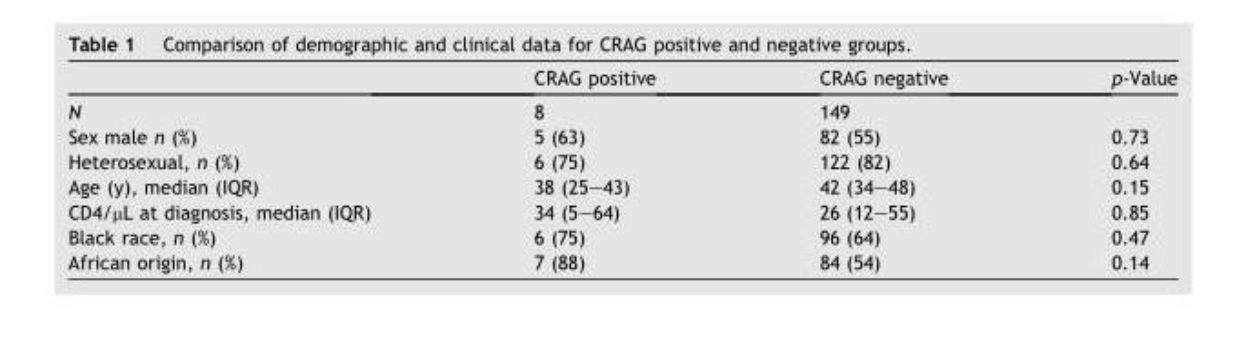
<table><thead><tr><td></td><td>CRAG positive</td><td>CRAG negative</td><td>p-Value</td></tr></thead><tbody><tr><td>N</td><td>8</td><td>149</td><td></td></tr><tr><td>Sex male n (%)</td><td>5 (63)</td><td>82 (55)</td><td>0.73</td></tr><tr><td>Heterosexual, n (%)</td><td>6 (75)</td><td>122 (82)</td><td>0.64</td></tr><tr><td>Age (y), median (IQR)</td><td>38 (25–43)</td><td>42 (34–48)</td><td>0.15</td></tr><tr><td>CD4/μL at diagnosis, median (IQR)</td><td>34 (5–64)</td><td>26 (12–55)</td><td>0.85</td></tr><tr><td>Black race, n (%)</td><td>6 (75)</td><td>96 (64)</td><td>0.47</td></tr><tr><td>African origin, n (%)</td><td>7 (88)</td><td>84 (54)</td><td>0.14</td></tr></tbody></table>